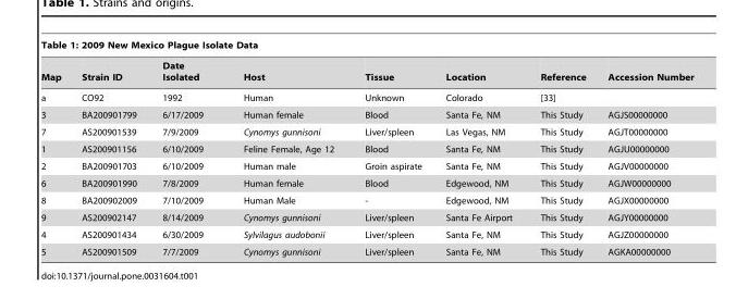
<table><thead><tr><td colspan="8">Table 1: 2009 New Mexico Plague Isolate Data</td></tr><tr><td>Map</td><td>Strain ID</td><td>Date Isolated</td><td>Host</td><td>Tissue</td><td>Location</td><td>Reference</td><td>Accession Number</td></tr></thead><tbody><tr><td>a</td><td>CO92</td><td>1992</td><td>Human</td><td>Unknown</td><td>Colorado</td><td>[33]</td><td></td></tr><tr><td>3</td><td>BA200901799</td><td>6/17/2009</td><td>Human female</td><td>Blood</td><td>Santa Fe, NM</td><td>This Study</td><td>AGJS00000000</td></tr><tr><td>7</td><td>AS200901539</td><td>7/9/2009</td><td>Cynomys gunnisoni</td><td>Liver/spleen</td><td>Las Vegas, NM</td><td>This Study</td><td>AGJT00000000</td></tr><tr><td>1</td><td>AS200901156</td><td>6/10/2009</td><td>Feline Female, Age 12</td><td>Blood</td><td>Santa Fe, NM</td><td>This Study</td><td>AGJU00000000</td></tr><tr><td>2</td><td>BA200901703</td><td>6/10/2009</td><td>Human male</td><td>Groin aspirate</td><td>Santa Fe, NM</td><td>This Study</td><td>AGJV00000000</td></tr><tr><td>6</td><td>BA200901990</td><td>7/8/2009</td><td>Human female</td><td>Blood</td><td>Edgewood, NM</td><td>This Study</td><td>AGJW00000000</td></tr><tr><td>8</td><td>BA200902009</td><td>7/10/2009</td><td>Human Male</td><td>-</td><td>Edgewood, NM</td><td>This Study</td><td>AGJX00000000</td></tr><tr><td>9</td><td>AS200902147</td><td>8/14/2009</td><td>Cynomys gunnisoni</td><td>Liver/spleen</td><td>Santa Fe Airport</td><td>This Study</td><td>AGJY00000000</td></tr><tr><td>4</td><td>AS200901434</td><td>6/30/2009</td><td>Sylvilagus audobonii</td><td>Liver/spleen</td><td>Santa Fe, NM</td><td>This Study</td><td>AGJZ00000000</td></tr><tr><td>5</td><td>AS200901509</td><td>7/7/2009</td><td>Cynomys gunnisoni</td><td>Liver/spleen</td><td>Santa Fe, NM</td><td>This Study</td><td>AGKA00000000</td></tr></tbody></table>